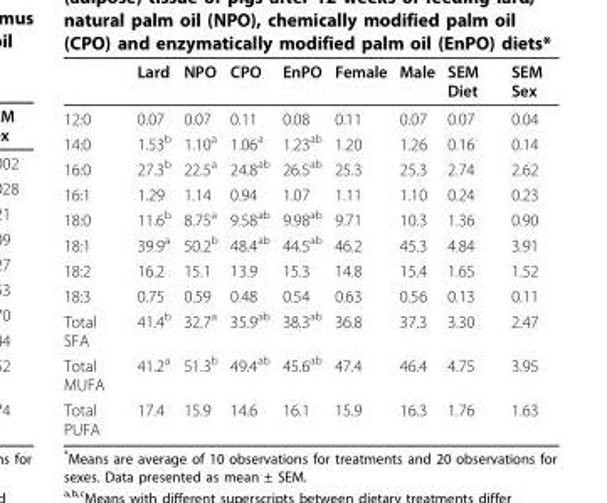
<table><thead><tr><td></td><td>Lard</td><td>NPO</td><td>CPO</td><td>EnPO</td><td>Female</td><td>Male</td><td>SEM Diet</td><td>SEM Sex</td></tr></thead><tbody><tr><td>12:0</td><td>0.07</td><td>0.07</td><td>0.11</td><td>0.08</td><td>0.11</td><td>0.07</td><td>0.07</td><td>0.04</td></tr><tr><td>14:0</td><td>1.53<sup>b</sup></td><td>1.10<sup>a</sup></td><td>1.06<sup>a</sup></td><td>1.23<sup>ab</sup></td><td>1.20</td><td>1.26</td><td>0.16</td><td>0.14</td></tr><tr><td>16:0</td><td>27.3<sup>b</sup></td><td>22.5<sup>a</sup></td><td>24.8<sup>ab</sup></td><td>26.5<sup>ab</sup></td><td>25.3</td><td>25.3</td><td>2.74</td><td>2.62</td></tr><tr><td>16:1</td><td>1.29</td><td>1.14</td><td>0.94</td><td>1.07</td><td>1.11</td><td>1.10</td><td>0.24</td><td>0.23</td></tr><tr><td>18:0</td><td>11.6<sup>b</sup></td><td>8.75<sup>a</sup></td><td>9.58<sup>ab</sup></td><td>9.98<sup>ab</sup></td><td>9.71</td><td>10.3</td><td>1.36</td><td>0.90</td></tr><tr><td>18:1</td><td>39.9<sup>a</sup></td><td>50.2<sup>b</sup></td><td>48.4<sup>ab</sup></td><td>44.5<sup>ab</sup></td><td>46.2</td><td>45.3</td><td>4.84</td><td>3.91</td></tr><tr><td>18:2</td><td>16.2</td><td>15.1</td><td>13.9</td><td>15.3</td><td>14.8</td><td>15.4</td><td>1.65</td><td>1.52</td></tr><tr><td>18:3</td><td>0.75</td><td>0.59</td><td>0.48</td><td>0.54</td><td>0.63</td><td>0.56</td><td>0.13</td><td>0.11</td></tr><tr><td>Total SFA</td><td>41.4<sup>b</sup></td><td>32.7<sup>a</sup></td><td>35.9<sup>ab</sup></td><td>38.3<sup>ab</sup></td><td>36.8</td><td>37.3</td><td>3.30</td><td>2.47</td></tr><tr><td>Total MUFA</td><td>41.2<sup>a</sup></td><td>51.3<sup>b</sup></td><td>49.4<sup>ab</sup></td><td>45.6<sup>ab</sup></td><td>47.4</td><td>46.4</td><td>4.75</td><td>3.95</td></tr><tr><td>Total PUFA</td><td>17.4</td><td>15.9</td><td>14.6</td><td>16.1</td><td>15.9</td><td>16.3</td><td>1.76</td><td>1.63</td></tr></tbody></table>